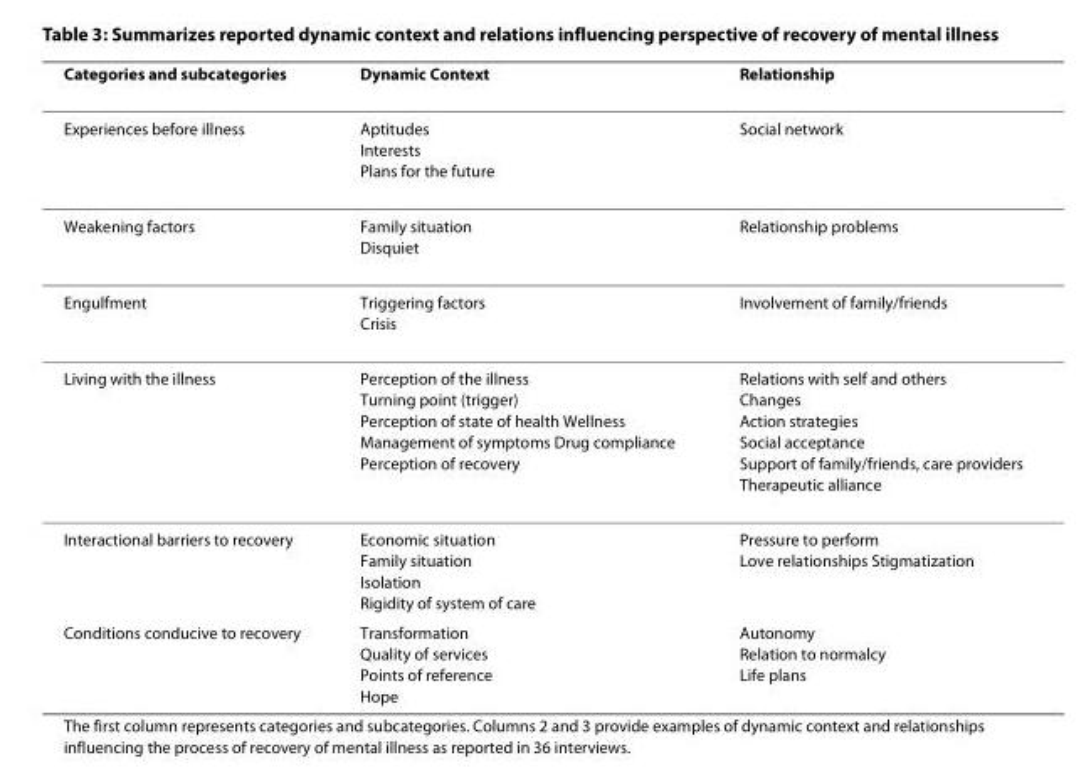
<table><thead><tr><td>Categories and subcategories</td><td>Dynamic Context</td><td>Relationship</td></tr></thead><tbody><tr><td>Experiences before illness</td><td>Aptitudes Interests Plans for the future</td><td>Social network</td></tr><tr><td>Weakening factors</td><td>Family situation Disquiet</td><td>Relationship problems</td></tr><tr><td>Engulfment</td><td>Triggering factors Crisis</td><td>Involvement of family/friends</td></tr><tr><td>Living with the illness</td><td>Perception of the illness Turning point (trigger) Perception of state of health Wellness Management of symptoms Drug compliance Perception of recovery</td><td>Relations with self and others Changes Action strategies Social acceptance Support of family/friends, care providers Therapeutic alliance</td></tr><tr><td>Interactional barriers to recovery</td><td>Economic situation Family situation Isolation Rigidity of system of care</td><td>Pressure to perform Love relationships Stigmatization</td></tr><tr><td>Conditions conducive to recovery</td><td>Transformation Quality of services Points of reference Hope</td><td>Autonomy Relation to normalcy Life plans</td></tr></tbody></table>